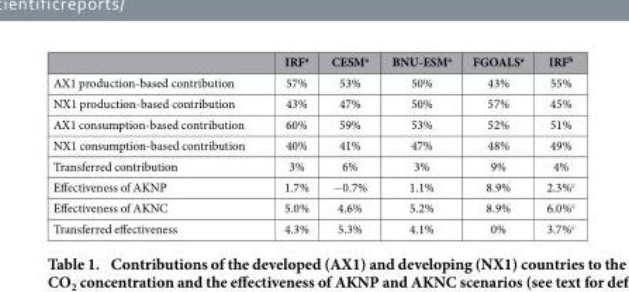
<table><thead><tr><td></td><td>IRF<sup>a</sup></td><td>CESM<sup>a</sup></td><td>BNU-ESM<sup>a</sup></td><td>FGOALS<sup>a</sup></td><td>IRF<sup>b</sup></td></tr></thead><tbody><tr><td>AX1 production-based contribution</td><td>57%</td><td>53%</td><td>50%</td><td>43%</td><td>55%</td></tr><tr><td>NX1 production-based contribution</td><td>43%</td><td>47%</td><td>50%</td><td>57%</td><td>45%</td></tr><tr><td>AX1 consumption-based contribution</td><td>60%</td><td>59%</td><td>53%</td><td>52%</td><td>51%</td></tr><tr><td>NX1 consumption-based contribution</td><td>40%</td><td>41%</td><td>47%</td><td>48%</td><td>49%</td></tr><tr><td>Transferred contribution</td><td>3%</td><td>6%</td><td>3%</td><td>9%</td><td>4%</td></tr><tr><td>Effectiveness of AKNP</td><td>1.7%</td><td>− 0.7%</td><td>1.1%</td><td>8.9%</td><td>2.3%<sup>c</sup></td></tr><tr><td>Effectiveness of AKNC</td><td>5.0%</td><td>4.6%</td><td>5.2%</td><td>8.9%</td><td>6.0%<sup>c</sup></td></tr><tr><td>Transferred effectiveness</td><td>4.3%</td><td>5.3%</td><td>4.1%</td><td>0%</td><td>3.7%<sup>c</sup></td></tr></tbody></table>